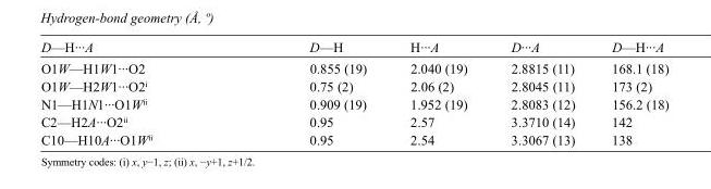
<table><tbody><tr><td>D—H···A</td><td>D—H</td><td>H···A</td><td>D···A</td><td>D—H···A</td></tr><tr><td>O1W—H1W1···O2</td><td>0.855 (19)</td><td>2.040 (19)</td><td>2.8815 (11)</td><td>168.1 (18)</td></tr><tr><td>O1W—H2W1···O2<sup>i</sup></td><td>0.75 (2)</td><td>2.06 (2)</td><td>2.8045 (11)</td><td>173 (2)</td></tr><tr><td>N1—H1N1···O1W<sup>ii</sup></td><td>0.909 (19)</td><td>1.952 (19)</td><td>2.8083 (12)</td><td>156.2 (18)</td></tr><tr><td>C2—H2A···O2<sup>ii</sup></td><td>0.95</td><td>2.57</td><td>3.3710 (14)</td><td>142</td></tr><tr><td>C10—H10A···O1W<sup>ii</sup></td><td>0.95</td><td>2.54</td><td>3.3067 (13)</td><td>138</td></tr></tbody></table>